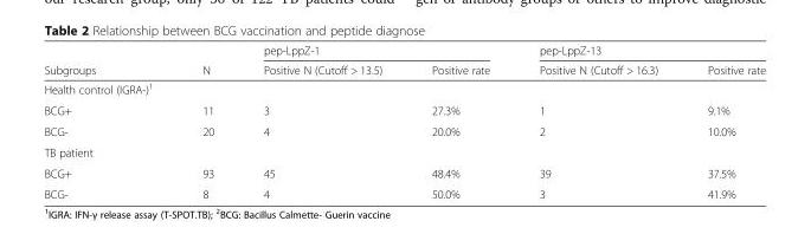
<table><thead><tr><td rowspan="2">Subgroups</td><td rowspan="2">N</td><td colspan="2">pep-LppZ-1</td><td colspan="2">pep-LppZ-13</td></tr><tr><td>Positive N (Cutoff &gt; 13.5)</td><td>Positive rate</td><td>Positive N (Cutoff &gt; 16.3)</td><td>Positive rate</td></tr></thead><tbody><tr><td colspan="6">Health control (IGRA-)<sup>1</sup></td></tr><tr><td>BCG+</td><td>11</td><td>3</td><td>27.3%</td><td>1</td><td>9.1%</td></tr><tr><td>BCG-</td><td>20</td><td>4</td><td>20.0%</td><td>2</td><td>10.0%</td></tr><tr><td colspan="6">TB patient</td></tr><tr><td>BCG+</td><td>93</td><td>45</td><td>48.4%</td><td>39</td><td>37.5%</td></tr><tr><td>BCG-</td><td>8</td><td>4</td><td>50.0%</td><td>3</td><td>41.9%</td></tr></tbody></table>